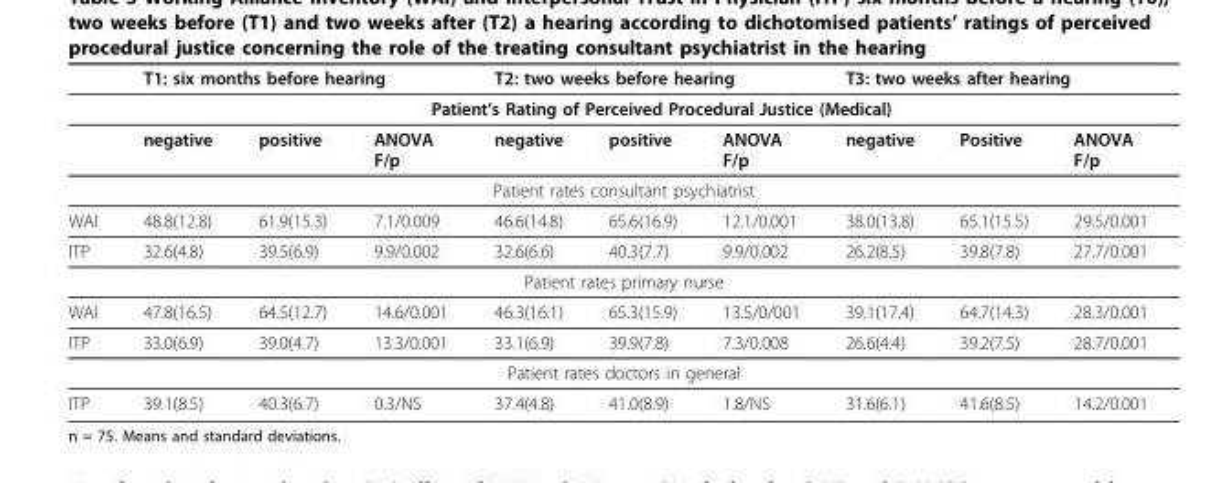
<table><thead><tr><td rowspan="3"></td><td colspan="3">T1: six months before hearing</td><td colspan="3">T2: two weeks before hearing</td><td colspan="3">T3: two weeks after hearing</td></tr><tr><td colspan="9">Patient’s Rating of Perceived Procedural Justice (Medical)</td></tr><tr><td>negative</td><td>positive</td><td>ANOVA F/p</td><td>negative</td><td>positive</td><td>ANOVA F/p</td><td>negative</td><td>Positive</td><td>ANOVA F/p</td></tr></thead><tbody><tr><td colspan="10">Patient rates consultant psychiatrist</td></tr><tr><td>WAI</td><td>48.8(12.8)</td><td>61.9(15.3)</td><td>7.1/0.009</td><td>46.6(14.8)</td><td>65.6(16.9)</td><td>12.1/0.001</td><td>38.0(13.8)</td><td>65.1(15.5)</td><td>29.5/0.001</td></tr><tr><td>ITP</td><td>32.6(4.8)</td><td>39.5(6.9)</td><td>9.9/0.002</td><td>32.6(6.6)</td><td>40.3(7.7)</td><td>9.9/0.002</td><td>26.2(8.5)</td><td>39.8(7.8)</td><td>27.7/0.001</td></tr><tr><td colspan="10">Patient rates primary nurse</td></tr><tr><td>WAI</td><td>47.8(16.5)</td><td>64.5(12.7)</td><td>14.6/0.001</td><td>46.3(16.1)</td><td>65.3(15.9)</td><td>13.5/0/001</td><td>39.1(17.4)</td><td>64.7(14.3)</td><td>28.3/0.001</td></tr><tr><td>ITP</td><td>33.0(6.9)</td><td>39.0(4.7)</td><td>13.3/0.001</td><td>33.1(6.9)</td><td>39.9(7.8)</td><td>7.3/0.008</td><td>26.6(4.4)</td><td>39.2(7.5)</td><td>28.7/0.001</td></tr><tr><td colspan="10">Patient rates doctors in general</td></tr><tr><td>ITP</td><td>39.1(8.5)</td><td>40.3(6.7)</td><td>0.3/NS</td><td>37.4(4.8)</td><td>41.0(8.9)</td><td>1.8/NS</td><td>31.6(6.1)</td><td>41.6(8.5)</td><td>14.2/0.001</td></tr></tbody></table>